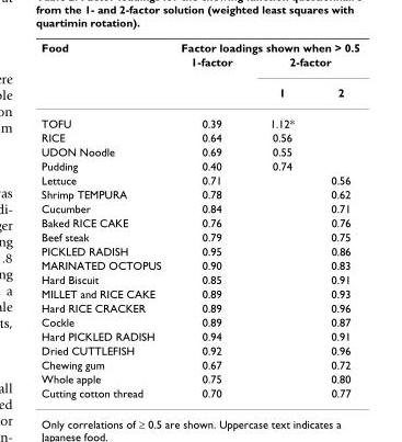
<table><thead><tr><td rowspan="3">Food</td><td colspan="3">Factor loadings shown when &gt; 0.5</td></tr><tr><td rowspan="2">1-factor</td><td colspan="2">2-factor</td></tr><tr><td>1</td><td>2</td></tr></thead><tbody><tr><td>TOFU</td><td>0.39</td><td>1.12*</td><td></td></tr><tr><td>RICE</td><td>0.64</td><td>0.56</td><td></td></tr><tr><td>UDON Noodle</td><td>0.69</td><td>0.55</td><td></td></tr><tr><td>Pudding</td><td>0.40</td><td>0.74</td><td></td></tr><tr><td>Lettuce</td><td>0.71</td><td></td><td>0.56</td></tr><tr><td>Shrimp TEMPURA</td><td>0.78</td><td></td><td>0.62</td></tr><tr><td>Cucumber</td><td>0.84</td><td></td><td>0.71</td></tr><tr><td>Baked RICE CAKE</td><td>0.76</td><td></td><td>0.76</td></tr><tr><td>Beef steak</td><td>0.79</td><td></td><td>0.75</td></tr><tr><td>PICKLED RADISH</td><td>0.95</td><td></td><td>0.86</td></tr><tr><td>MARINATED OCTOPUS</td><td>0.90</td><td></td><td>0.83</td></tr><tr><td>Hard Biscuit</td><td>0.85</td><td></td><td>0.91</td></tr><tr><td>MILLET and RICE CAKE</td><td>0.89</td><td></td><td>0.93</td></tr><tr><td>Hard RICE CRACKER</td><td>0.89</td><td></td><td>0.96</td></tr><tr><td>Cockle</td><td>0.89</td><td></td><td>0.87</td></tr><tr><td>Hard PICKLED RADISH</td><td>0.94</td><td></td><td>0.91</td></tr><tr><td>Dried CUTTLEFISH</td><td>0.92</td><td></td><td>0.96</td></tr><tr><td>Chewing gum</td><td>0.67</td><td></td><td>0.72</td></tr><tr><td>Whole apple</td><td>0.75</td><td></td><td>0.80</td></tr><tr><td>Cutting cotton thread</td><td>0.70</td><td></td><td>0.77</td></tr></tbody></table>